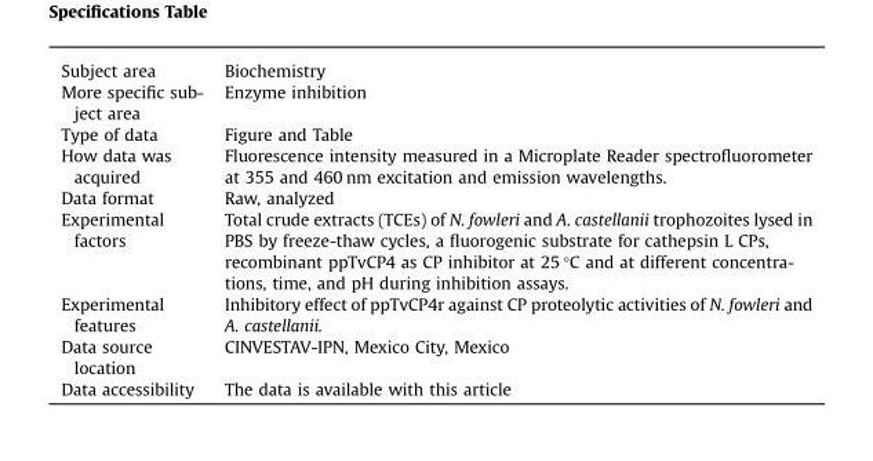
<table><tbody><tr><td>Subject area</td><td>Biochemistry</td></tr><tr><td>More specific sub- ject area</td><td>Enzyme inhibition</td></tr><tr><td>Type of data</td><td>Figure and Table</td></tr><tr><td>How data was acquired</td><td>Fluorescence intensity measured in a Microplate Reader spectrofluorometer at 355 and 460 nm excitation and emission wavelengths.</td></tr><tr><td>Data format</td><td>Raw, analyzed</td></tr><tr><td>Experimental factors</td><td>Total crude extracts (TCEs) of N. fowleri and A. castellanii trophozoites lysed in PBS by freeze-thaw cycles, a fluorogenic substrate for cathepsin L CPs, recombinant ppTvCP4 as CP inhibitor at 25 °C and at different concentra- tions, time, and pH during inhibition assays.</td></tr><tr><td>Experimental features</td><td>Inhibitory effect of ppTvCP4r against CP proteolytic activities of N. fowleri and A. castellanii.</td></tr><tr><td>Data source location</td><td>CINVESTAV-IPN, Mexico City, Mexico</td></tr><tr><td>Data accessibility</td><td>The data is available with this article</td></tr></tbody></table>